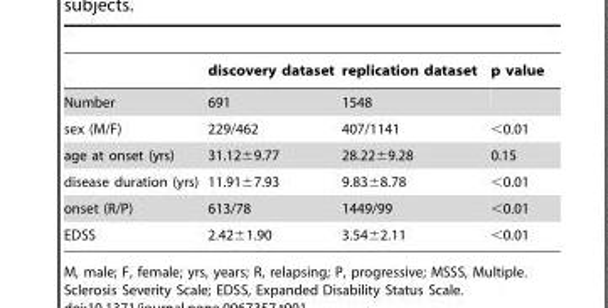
<table><thead><tr><td></td><td>discovery dataset</td><td>replication dataset</td><td>p value</td></tr></thead><tbody><tr><td>Number</td><td>691</td><td>1548</td><td></td></tr><tr><td>sex (M/F)</td><td>229/462</td><td>407/1141</td><td>&lt;0.01</td></tr><tr><td>age at onset (yrs)</td><td>31.12±9.77</td><td>28.22±9.28</td><td>0.15</td></tr><tr><td>disease duration (yrs)</td><td>11.91±7.93</td><td>9.83±8.78</td><td>&lt;0.01</td></tr><tr><td>onset (R/P)</td><td>613/78</td><td>1449/99</td><td>&lt;0.01</td></tr><tr><td>EDSS</td><td>2.42±1.90</td><td>3.54±2.11</td><td>&lt;0.01</td></tr></tbody></table>